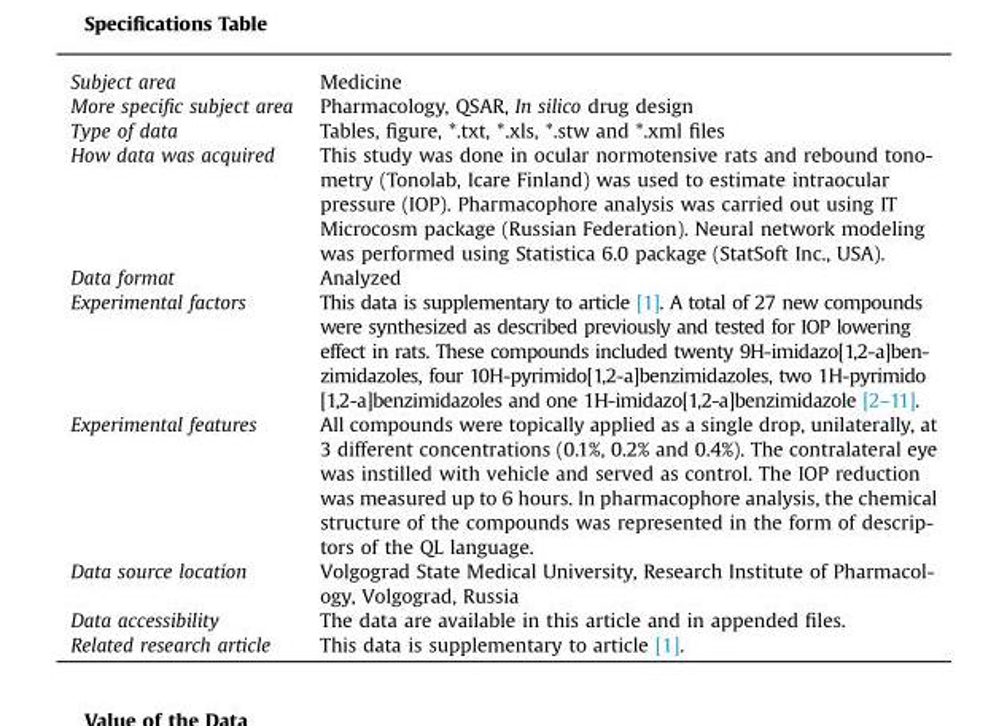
<table><tbody><tr><td>Subject area</td><td>Medicine</td></tr><tr><td>More specific subject area</td><td>Pharmacology, QSAR, In silico drug design</td></tr><tr><td>Type of data</td><td>Tables, figure, *.txt, *.xls, *.stw and *.xml files</td></tr><tr><td>How data was acquired</td><td>This study was done in ocular normotensive rats and rebound tono- metry (Tonolab, Icare Finland) was used to estimate intraocular pressure (IOP). Pharmacophore analysis was carried out using IT Microcosm package (Russian Federation). Neural network modeling was performed using Statistica 6.0 package (StatSoft Inc., USA).</td></tr><tr><td>Data format</td><td>Analyzed</td></tr><tr><td>Experimental factors</td><td>This data is supplementary to article [1]. A total of 27 new compounds were synthesized as described previously and tested for IOP lowering effect in rats. These compounds included twenty 9H-imidazo[1,2-a]ben- zimidazoles, four 10H-pyrimido[1,2-a]benzimidazoles, two 1H-pyrimido [1,2-a]benzimidazoles and one 1H-imidazo[1,2-a]benzimidazole [2–11].</td></tr><tr><td>Experimental features</td><td>All compounds were topically applied as a single drop, unilaterally, at 3 different concentrations (0.1%, 0.2% and 0.4%). The contralateral eye was instilled with vehicle and served as control. The IOP reduction was measured up to 6 hours. In pharmacophore analysis, the chemical structure of the compounds was represented in the form of descrip- tors of the QL language.</td></tr><tr><td>Data source location</td><td>Volgograd State Medical University, Research Institute of Pharmacol- ogy, Volgograd, Russia</td></tr><tr><td>Data accessibility</td><td>The data are available in this article and in appended files.</td></tr><tr><td>Related research article</td><td>This data is supplementary to article [1].</td></tr></tbody></table>